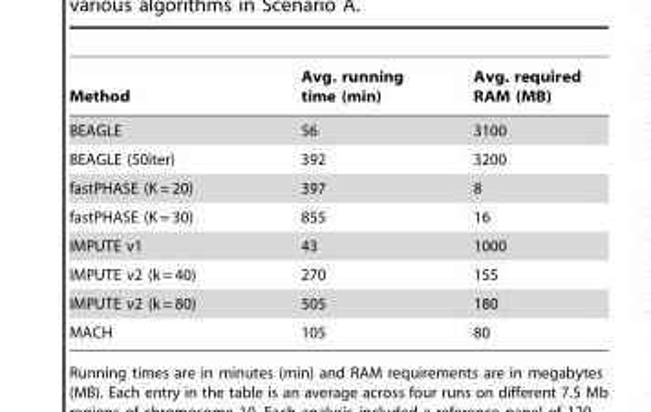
<table><thead><tr><td>Method</td><td>Avg. running time (min)</td><td>Avg. required RAM (MB)</td></tr></thead><tbody><tr><td>BEAGLE</td><td>56</td><td>3100</td></tr><tr><td>BEAGLE (50iter)</td><td>392</td><td>3200</td></tr><tr><td>fastPHASE (K = 20)</td><td>397</td><td>8</td></tr><tr><td>fastPHASE (K = 30)</td><td>855</td><td>16</td></tr><tr><td>IMPUTE v1</td><td>43</td><td>1000</td></tr><tr><td>IMPUTE v2 (k = 40)</td><td>270</td><td>155</td></tr><tr><td>IMPUTE v2 (k = 80)</td><td>505</td><td>180</td></tr><tr><td>MACH</td><td>105</td><td>80</td></tr></tbody></table>